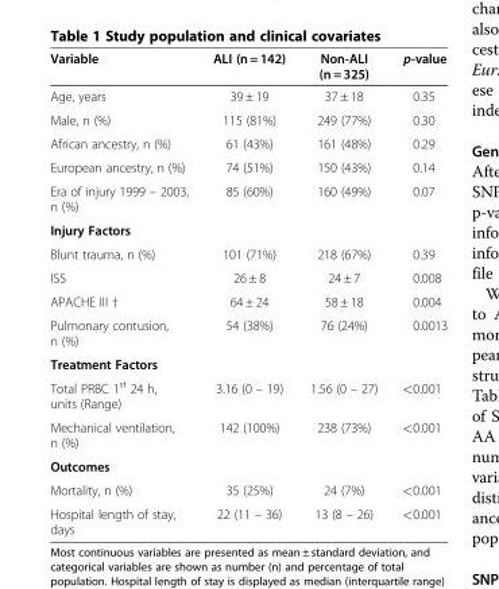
<table><thead><tr><td>Variable</td><td>ALI (n = 142)</td><td>Non-ALI (n = 325)</td><td>p-value</td></tr></thead><tbody><tr><td>Age, years</td><td>39 ± 19</td><td>37 ± 18</td><td>0.35</td></tr><tr><td>Male, n (%)</td><td>115 (81%)</td><td>249 (77%)</td><td>0.30</td></tr><tr><td>African ancestry, n (%)</td><td>61 (43%)</td><td>161 (48%)</td><td>0.29</td></tr><tr><td>European ancestry, n (%)</td><td>74 (51%)</td><td>150 (43%)</td><td>0.14</td></tr><tr><td>Era of injury 1999 – 2003, n (%)</td><td>85 (60%)</td><td>160 (49%)</td><td>0.07</td></tr><tr><td colspan="4">Injury Factors</td></tr><tr><td>Blunt trauma, n (%)</td><td>101 (71%)</td><td>218 (67%)</td><td>0.39</td></tr><tr><td>ISS</td><td>26 ± 8</td><td>24 ± 7</td><td>0.008</td></tr><tr><td>APACHE III †</td><td>64 ± 24</td><td>58 ± 18</td><td>0.004</td></tr><tr><td>Pulmonary contusion, n (%)</td><td>54 (38%)</td><td>76 (24%)</td><td>0.0013</td></tr><tr><td colspan="4">Treatment Factors</td></tr><tr><td>Total PRBC 1<sup>st</sup> 24 h, units (Range)</td><td>3.16 (0 – 19)</td><td>1.56 (0 – 27)</td><td>&lt;0.001</td></tr><tr><td>Mechanical ventilation, n (%)</td><td>142 (100%)</td><td>238 (73%)</td><td>&lt;0.001</td></tr><tr><td colspan="4">Outcomes</td></tr><tr><td>Mortality, n (%)</td><td>35 (25%)</td><td>24 (7%)</td><td>&lt;0.001</td></tr><tr><td>Hospital length of stay, days</td><td>22 (11 – 36)</td><td>13 (8 – 26)</td><td>&lt;0.001</td></tr></tbody></table>